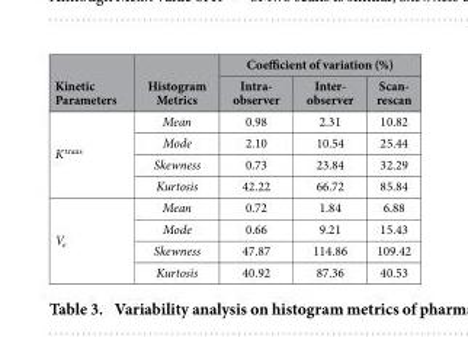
<table><thead><tr><td rowspan="2">Kinetic Parameters</td><td rowspan="2">Histogram Metrics</td><td colspan="3">Coefficient of variation (%)</td></tr><tr><td>Intra- observer</td><td>Inter- observer</td><td>Scan- rescan</td></tr></thead><tbody><tr><td rowspan="4">K <sup>trans</sup></td><td>Mean</td><td>0.98</td><td>2.31</td><td>10.82</td></tr><tr><td>Mode</td><td>2.10</td><td>10.54</td><td>25.44</td></tr><tr><td>Skewness</td><td>0.73</td><td>23.84</td><td>32.29</td></tr><tr><td>Kurtosis</td><td>42.22</td><td>66.72</td><td>85.84</td></tr><tr><td rowspan="4">V<sub>e</sub></td><td>Mean</td><td>0.72</td><td>1.84</td><td>6.88</td></tr><tr><td>Mode</td><td>0.66</td><td>9.21</td><td>15.43</td></tr><tr><td>Skewness</td><td>47.87</td><td>114.86</td><td>109.42</td></tr><tr><td>Kurtosis</td><td>40.92</td><td>87.36</td><td>40.53</td></tr></tbody></table>